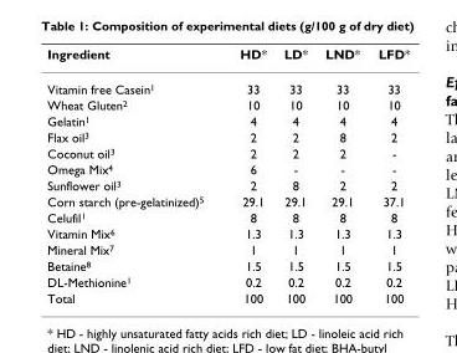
<table><thead><tr><td>Ingredient</td><td>HD*</td><td>LD*</td><td>LND*</td><td>LFD*</td></tr></thead><tbody><tr><td>Vitamin free Casein<sup>1</sup></td><td>33</td><td>33</td><td>33</td><td>33</td></tr><tr><td>Wheat Gluten<sup>2</sup></td><td>10</td><td>10</td><td>10</td><td>10</td></tr><tr><td>Gelatin<sup>1</sup></td><td>4</td><td>4</td><td>4</td><td>4</td></tr><tr><td>Flax oil<sup>3</sup></td><td>2</td><td>2</td><td>8</td><td>2</td></tr><tr><td>Coconut oil<sup>3</sup></td><td>2</td><td>2</td><td>2</td><td>-</td></tr><tr><td>Omega Mix<sup>4</sup></td><td>6</td><td>-</td><td>-</td><td>-</td></tr><tr><td>Sunflower oil<sup>3</sup></td><td>2</td><td>8</td><td>2</td><td>2</td></tr><tr><td>Corn starch (pre-gelatinized)<sup>5</sup></td><td>29.1</td><td>29.1</td><td>29.1</td><td>37.1</td></tr><tr><td>Celufil<sup>1</sup></td><td>8</td><td>8</td><td>8</td><td>8</td></tr><tr><td>Vitamin Mix<sup>6</sup></td><td>1.3</td><td>1.3</td><td>1.3</td><td>1.3</td></tr><tr><td>Mineral Mix<sup>7</sup></td><td>1</td><td>1</td><td>1</td><td>1</td></tr><tr><td>Betaine<sup>8</sup></td><td>1.5</td><td>1.5</td><td>1.5</td><td>1.5</td></tr><tr><td>DL-Methionine<sup>1</sup></td><td>0.2</td><td>0.2</td><td>0.2</td><td>0.2</td></tr><tr><td>Total</td><td>100</td><td>100</td><td>100</td><td>100</td></tr></tbody></table>